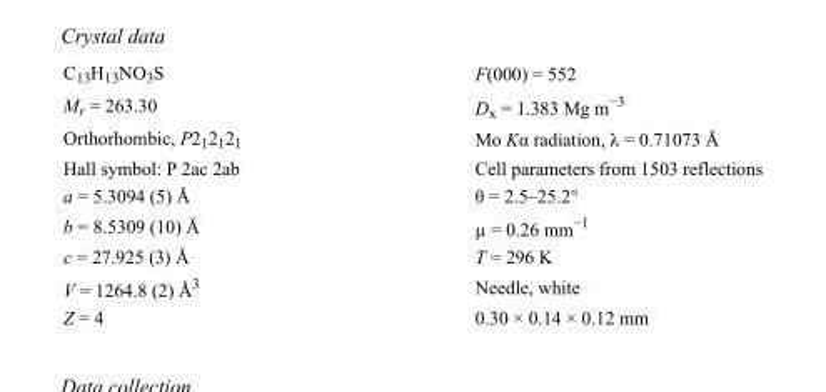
<table><tbody><tr><td>C<sub>13</sub>H<sub>13</sub>NO<sub>3</sub>S</td><td>F(000) = 552</td></tr><tr><td>M<sub>r</sub> = 263.30</td><td>D<sub>x</sub> = 1.383 Mg m<sup>−3</sup></td></tr><tr><td>Orthorhombic, P2<sub>1</sub>2<sub>1</sub>2<sub>1</sub></td><td>Mo Kα radiation, λ = 0.71073 Å</td></tr><tr><td>Hall symbol: P 2ac 2ab</td><td>Cell parameters from 1503 reflections</td></tr><tr><td>a = 5.3094 (5) Å</td><td>θ = 2.5–25.2°</td></tr><tr><td>b = 8.5309 (10) Å</td><td>µ = 0.26 mm<sup>−1</sup></td></tr><tr><td>c = 27.925 (3) Å</td><td>T = 296 K</td></tr><tr><td>V = 1264.8 (2) Å<sup>3</sup></td><td>Needle, white</td></tr><tr><td>Z = 4</td><td>0.30 × 0.14 × 0.12 mm</td></tr></tbody></table>